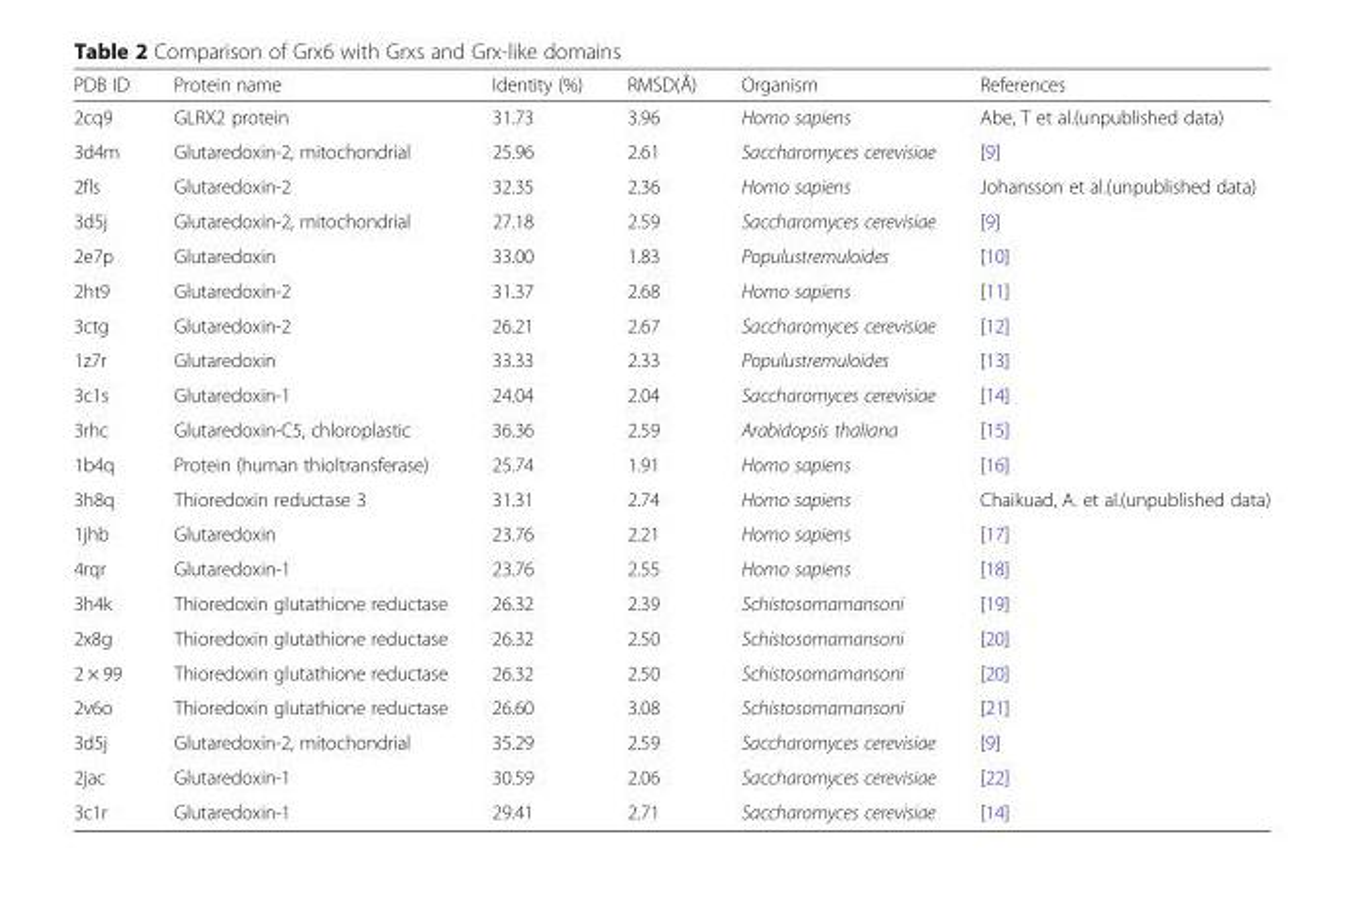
<table><thead><tr><td>PDB ID</td><td>Protein name</td><td>Identity (%)</td><td>RMSD(Å)</td><td>Organism</td><td>References</td></tr></thead><tbody><tr><td>2cq9</td><td>GLRX2 protein</td><td>31.73</td><td>3.96</td><td>Homo sapiens</td><td>Abe, T et al.(unpublished data)</td></tr><tr><td>3d4m</td><td>Glutaredoxin-2, mitochondrial</td><td>25.96</td><td>2.61</td><td>Saccharomyces cerevisiae</td><td>[9]</td></tr><tr><td>2fls</td><td>Glutaredoxin-2</td><td>32.35</td><td>2.36</td><td>Homo sapiens</td><td>Johansson et al.(unpublished data)</td></tr><tr><td>3d5j</td><td>Glutaredoxin-2, mitochondrial</td><td>27.18</td><td>2.59</td><td>Saccharomyces cerevisiae</td><td>[9]</td></tr><tr><td>2e7p</td><td>Glutaredoxin</td><td>33.00</td><td>1.83</td><td>Populustremuloides</td><td>[10]</td></tr><tr><td>2ht9</td><td>Glutaredoxin-2</td><td>31.37</td><td>2.68</td><td>Homo sapiens</td><td>[11]</td></tr><tr><td>3ctg</td><td>Glutaredoxin-2</td><td>26.21</td><td>2.67</td><td>Saccharomyces cerevisiae</td><td>[12]</td></tr><tr><td>1z7r</td><td>Glutaredoxin</td><td>33.33</td><td>2.33</td><td>Populustremuloides</td><td>[13]</td></tr><tr><td>3c1s</td><td>Glutaredoxin-1</td><td>24.04</td><td>2.04</td><td>Saccharomyces cerevisiae</td><td>[14]</td></tr><tr><td>3rhc</td><td>Glutaredoxin-C5, chloroplastic</td><td>36.36</td><td>2.59</td><td>Arabidopsis thaliana</td><td>[15]</td></tr><tr><td>1b4q</td><td>Protein (human thioltransferase)</td><td>25.74</td><td>1.91</td><td>Homo sapiens</td><td>[16]</td></tr><tr><td>3h8q</td><td>Thioredoxin reductase 3</td><td>31.31</td><td>2.74</td><td>Homo sapiens</td><td>Chaikuad, A. et al.(unpublished data)</td></tr><tr><td>1jhb</td><td>Glutaredoxin</td><td>23.76</td><td>2.21</td><td>Homo sapiens</td><td>[17]</td></tr><tr><td>4rqr</td><td>Glutaredoxin-1</td><td>23.76</td><td>2.55</td><td>Homo sapiens</td><td>[18]</td></tr><tr><td>3h4k</td><td>Thioredoxin glutathione reductase</td><td>26.32</td><td>2.39</td><td>Schistosomamansoni</td><td>[19]</td></tr><tr><td>2x8g</td><td>Thioredoxin glutathione reductase</td><td>26.32</td><td>2.50</td><td>Schistosomamansoni</td><td>[20]</td></tr><tr><td>2 × 99</td><td>Thioredoxin glutathione reductase</td><td>26.32</td><td>2.50</td><td>Schistosomamansoni</td><td>[20]</td></tr><tr><td>2v6o</td><td>Thioredoxin glutathione reductase</td><td>26.60</td><td>3.08</td><td>Schistosomamansoni</td><td>[21]</td></tr><tr><td>3d5j</td><td>Glutaredoxin-2, mitochondrial</td><td>35.29</td><td>2.59</td><td>Saccharomyces cerevisiae</td><td>[9]</td></tr><tr><td>2jac</td><td>Glutaredoxin-1</td><td>30.59</td><td>2.06</td><td>Saccharomyces cerevisiae</td><td>[22]</td></tr><tr><td>3c1r</td><td>Glutaredoxin-1</td><td>29.41</td><td>2.71</td><td>Saccharomyces cerevisiae</td><td>[14]</td></tr></tbody></table>